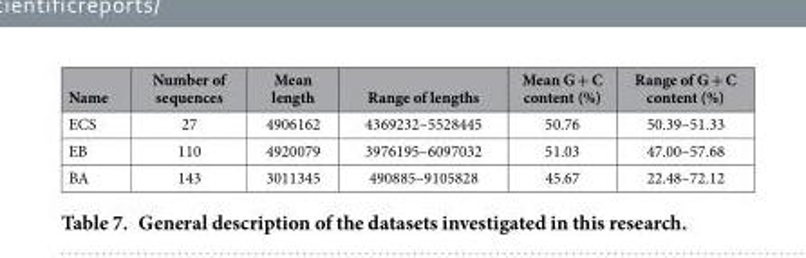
<table><thead><tr><td>Name</td><td>Number of sequences</td><td>Mean length</td><td>Range of lengths</td><td>Mean G + C content (%)</td><td>Range of G + C content (%)</td></tr></thead><tbody><tr><td>ECS</td><td>27</td><td>4906162</td><td>4369232–5528445</td><td>50.76</td><td>50.39–51.33</td></tr><tr><td>EB</td><td>110</td><td>4920079</td><td>3976195–6097032</td><td>51.03</td><td>47.00–57.68</td></tr><tr><td>BA</td><td>143</td><td>3011345</td><td>490885–9105828</td><td>45.67</td><td>22.48–72.12</td></tr></tbody></table>